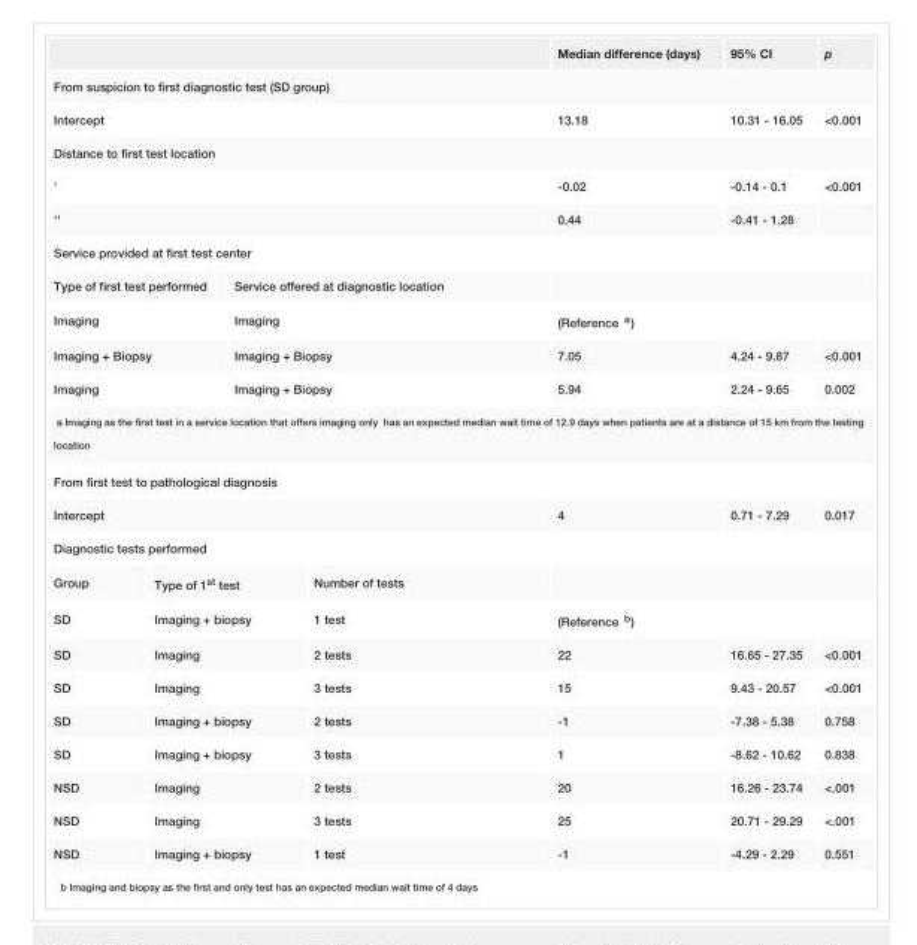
<table><thead><tr><td></td><td></td><td></td><td></td><td>Median difference (days)</td><td>95% CI</td><td>p</td></tr></thead><tbody><tr><td colspan="7">From suspicion to first diagnostic test (SD group)</td></tr><tr><td colspan="4">Intercept</td><td>13.18</td><td>10.31 - 16.05</td><td>&lt;0.001</td></tr><tr><td colspan="7">Distance to first test location</td></tr><tr><td colspan="4">&#x27;</td><td>-0.02</td><td>-0.14 - 0.1</td><td>&lt;0.001</td></tr><tr><td colspan="4">&#x27;&#x27;</td><td>0.44</td><td>-0.41 - 1.28</td><td></td></tr><tr><td colspan="7">Service provided at first test center</td></tr><tr><td colspan="2">Type of first test performed</td><td colspan="2">Service offered at diagnostic location</td><td colspan="3"></td></tr><tr><td colspan="2">Imaging</td><td colspan="2">Imaging</td><td colspan="3">(Reference <sup>a</sup>)</td></tr><tr><td colspan="2">Imaging + Biopsy</td><td colspan="2">Imaging + Biopsy</td><td>7.05</td><td>4.24 - 9.87</td><td>&lt;0.001</td></tr><tr><td colspan="2">Imaging</td><td colspan="2">Imaging + Biopsy</td><td>5.94</td><td>2.24 - 9.65</td><td>0.002</td></tr><tr><td colspan="7"><sup>a Imaging as the first test in a service location that offers imaging only has an expected median wait time of 12.9 days when patients are at a distance of 15 km from the testing location</sup></td></tr><tr><td colspan="7">From first test to pathological diagnosis</td></tr><tr><td colspan="4">Intercept</td><td>4</td><td>0.71 - 7.29</td><td>0.017</td></tr><tr><td colspan="7">Diagnostic tests performed</td></tr><tr><td>Group</td><td colspan="2">Type of 1<sup>st</sup> test</td><td>Number of tests</td><td colspan="3"></td></tr><tr><td>SD</td><td colspan="2">Imaging + biopsy</td><td>1 test</td><td colspan="3">(Reference <sup>b</sup>)</td></tr><tr><td>SD</td><td colspan="2">Imaging</td><td>2 tests</td><td>22</td><td>16.65 - 27.35</td><td>&lt;0.001</td></tr><tr><td>SD</td><td colspan="2">Imaging</td><td>3 tests</td><td>15</td><td>9.43 - 20.57</td><td>&lt;0.001</td></tr><tr><td>SD</td><td colspan="2">Imaging + biopsy</td><td>2 tests</td><td>-1</td><td>-7.38 - 5.38</td><td>0.758</td></tr><tr><td>SD</td><td colspan="2">Imaging + biopsy</td><td>3 tests</td><td>1</td><td>-8.62 - 10.62</td><td>0.838</td></tr><tr><td>NSD</td><td colspan="2">Imaging</td><td>2 tests</td><td>20</td><td>16.26 - 23.74</td><td>&lt;.001</td></tr><tr><td>NSD</td><td colspan="2">Imaging</td><td>3 tests</td><td>25</td><td>20.71 - 29.29</td><td>&lt;.001</td></tr><tr><td>NSD</td><td colspan="2">Imaging + biopsy</td><td>1 test</td><td>-1</td><td>-4.29 - 2.29</td><td>0.551</td></tr><tr><td colspan="7"><sup>b Imaging and biopsy as the first and only test has an expected median wait time of 4 days</sup></td></tr></tbody></table>